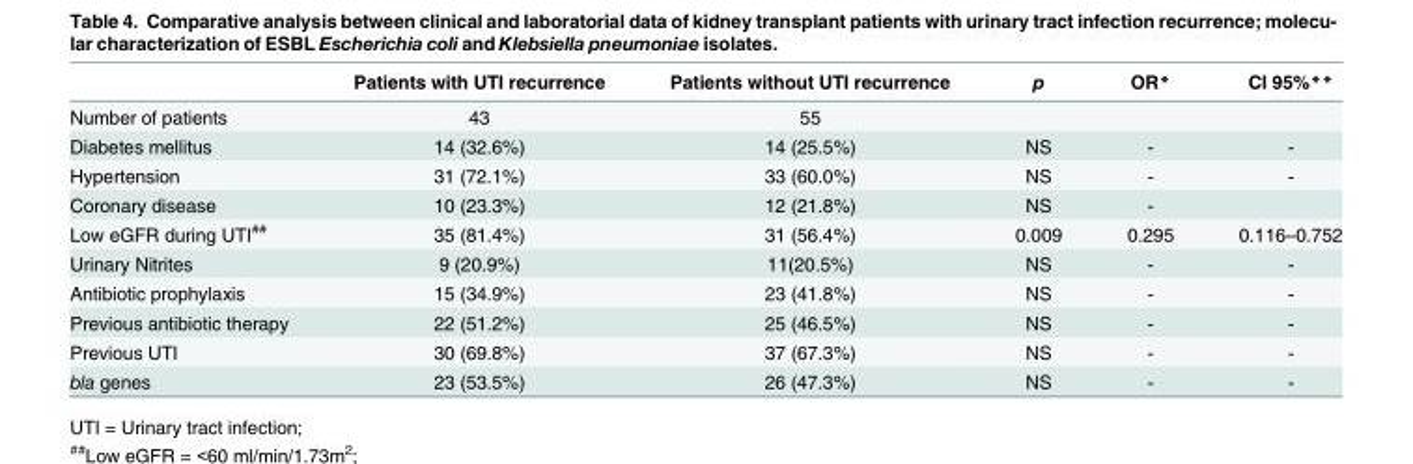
<table><thead><tr><td></td><td>Patients with UTI recurrence</td><td>Patients without UTI recurrence</td><td>p</td><td>OR*</td><td>CI 95%**</td></tr></thead><tbody><tr><td>Number of patients</td><td>43</td><td>55</td><td></td><td></td><td></td></tr><tr><td>Diabetes mellitus</td><td>14 (32.6%)</td><td>14 (25.5%)</td><td>NS</td><td>-</td><td>-</td></tr><tr><td>Hypertension</td><td>31 (72.1%)</td><td>33 (60.0%)</td><td>NS</td><td>-</td><td>-</td></tr><tr><td>Coronary disease</td><td>10 (23.3%)</td><td>12 (21.8%)</td><td>NS</td><td>-</td><td></td></tr><tr><td>Low eGFR during UTI<sup>##</sup></td><td>35 (81.4%)</td><td>31 (56.4%)</td><td>0.009</td><td>0.295</td><td>0.116–0.752</td></tr><tr><td>Urinary Nitrites</td><td>9 (20.9%)</td><td>11(20.5%)</td><td>NS</td><td>-</td><td>-</td></tr><tr><td>Antibiotic prophylaxis</td><td>15 (34.9%)</td><td>23 (41.8%)</td><td>NS</td><td>-</td><td>-</td></tr><tr><td>Previous antibiotic therapy</td><td>22 (51.2%)</td><td>25 (46.5%)</td><td>NS</td><td>-</td><td>-</td></tr><tr><td>Previous UTI</td><td>30 (69.8%)</td><td>37 (67.3%)</td><td>NS</td><td>-</td><td>-</td></tr><tr><td>bla genes</td><td>23 (53.5%)</td><td>26 (47.3%)</td><td>NS</td><td>-</td><td>-</td></tr></tbody></table>